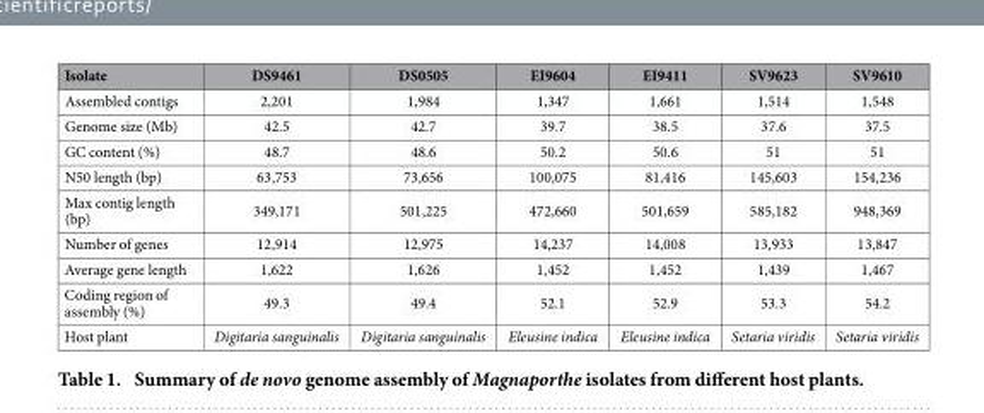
<table><thead><tr><td>Isolate</td><td>DS9461</td><td>DS0505</td><td>EI9604</td><td>EI9411</td><td>SV9623</td><td>SV9610</td></tr></thead><tbody><tr><td>Assembled contigs</td><td>2,201</td><td>1,984</td><td>1,347</td><td>1,661</td><td>1,514</td><td>1,548</td></tr><tr><td>Genome size (Mb)</td><td>42.5</td><td>42.7</td><td>39.7</td><td>38.5</td><td>37.6</td><td>37.5</td></tr><tr><td>GC content (%)</td><td>48.7</td><td>48.6</td><td>50.2</td><td>50.6</td><td>51</td><td>51</td></tr><tr><td>N50 length (bp)</td><td>63,753</td><td>73,656</td><td>100,075</td><td>81,416</td><td>145,603</td><td>154,236</td></tr><tr><td>Max contig length (bp)</td><td>349,171</td><td>501,225</td><td>472,660</td><td>501,659</td><td>585,182</td><td>948,369</td></tr><tr><td>Number of genes</td><td>12,914</td><td>12,975</td><td>14,237</td><td>14,008</td><td>13,933</td><td>13,847</td></tr><tr><td>Average gene length</td><td>1,622</td><td>1,626</td><td>1,452</td><td>1,452</td><td>1,439</td><td>1,467</td></tr><tr><td>Coding region of assembly (%)</td><td>49.3</td><td>49.4</td><td>52.1</td><td>52.9</td><td>53.3</td><td>54.2</td></tr><tr><td>Host plant</td><td>Digitaria sanguinalis</td><td>Digitaria sanguinalis</td><td>Eleusine indica</td><td>Eleusine indica</td><td>Setaria viridis</td><td>Setaria viridis</td></tr></tbody></table>